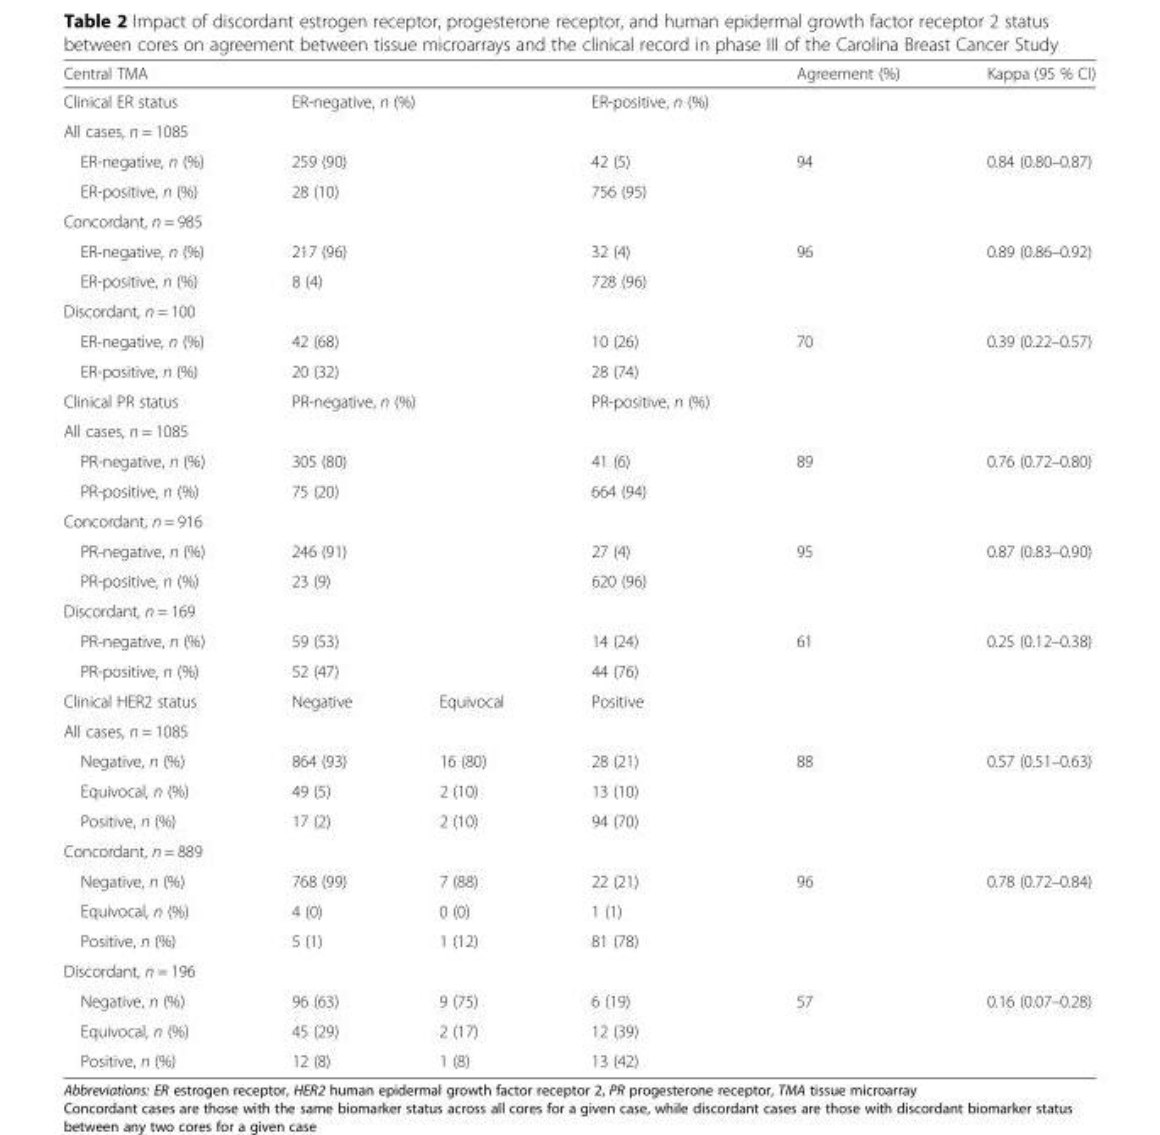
<table><thead><tr><td>Central TMA</td><td></td><td></td><td></td><td>Agreement (%)</td><td>Kappa (95 % CI)</td></tr></thead><tbody><tr><td>Clinical ER status</td><td colspan="2">ER-negative, n (%)</td><td>ER-positive, n (%)</td><td></td><td></td></tr><tr><td colspan="6">All cases, n = 1085</td></tr><tr><td>ER-negative, n (%)</td><td colspan="2">259 (90)</td><td>42 (5)</td><td rowspan="2">94</td><td rowspan="2">0.84 (0.80–0.87)</td></tr><tr><td>ER-positive, n (%)</td><td colspan="2">28 (10)</td><td>756 (95)</td></tr><tr><td colspan="6">Concordant, n = 985</td></tr><tr><td>ER-negative, n (%)</td><td colspan="2">217 (96)</td><td>32 (4)</td><td rowspan="2">96</td><td rowspan="2">0.89 (0.86–0.92)</td></tr><tr><td>ER-positive, n (%)</td><td colspan="2">8 (4)</td><td>728 (96)</td></tr><tr><td colspan="6">Discordant, n = 100</td></tr><tr><td>ER-negative, n (%)</td><td colspan="2">42 (68)</td><td>10 (26)</td><td>70</td><td>0.39 (0.22–0.57)</td></tr><tr><td>ER-positive, n (%)</td><td colspan="2">20 (32)</td><td>28 (74)</td><td></td><td></td></tr><tr><td>Clinical PR status</td><td colspan="2">PR-negative, n (%)</td><td>PR-positive, n (%)</td><td></td><td></td></tr><tr><td colspan="6">All cases, n = 1085</td></tr><tr><td>PR-negative, n (%)</td><td colspan="2">305 (80)</td><td>41 (6)</td><td rowspan="2">89</td><td rowspan="2">0.76 (0.72–0.80)</td></tr><tr><td>PR-positive, n (%)</td><td colspan="2">75 (20)</td><td>664 (94)</td></tr><tr><td colspan="6">Concordant, n = 916</td></tr><tr><td>PR-negative, n (%)</td><td colspan="2">246 (91)</td><td>27 (4)</td><td rowspan="2">95</td><td rowspan="2">0.87 (0.83–0.90)</td></tr><tr><td>PR-positive, n (%)</td><td colspan="2">23 (9)</td><td>620 (96)</td></tr><tr><td colspan="6">Discordant, n = 169</td></tr><tr><td>PR-negative, n (%)</td><td colspan="2">59 (53)</td><td>14 (24)</td><td>61</td><td>0.25 (0.12–0.38)</td></tr><tr><td>PR-positive, n (%)</td><td colspan="2">52 (47)</td><td>44 (76)</td><td></td><td></td></tr><tr><td>Clinical HER2 status</td><td>Negative</td><td>Equivocal</td><td>Positive</td><td></td><td></td></tr><tr><td colspan="6">All cases, n = 1085</td></tr><tr><td>Negative, n (%)</td><td>864 (93)</td><td>16 (80)</td><td>28 (21)</td><td rowspan="3">88</td><td rowspan="3">0.57 (0.51–0.63)</td></tr><tr><td>Equivocal, n (%)</td><td>49 (5)</td><td>2 (10)</td><td>13 (10)</td></tr><tr><td>Positive, n (%)</td><td>17 (2)</td><td>2 (10)</td><td>94 (70)</td></tr><tr><td colspan="6">Concordant, n = 889</td></tr><tr><td>Negative, n (%)</td><td>768 (99)</td><td>7 (88)</td><td>22 (21)</td><td rowspan="3">96</td><td rowspan="3">0.78 (0.72–0.84)</td></tr><tr><td>Equivocal, n (%)</td><td>4 (0)</td><td>0 (0)</td><td>1 (1)</td></tr><tr><td>Positive, n (%)</td><td>5 (1)</td><td>1 (12)</td><td>81 (78)</td></tr><tr><td colspan="6">Discordant, n = 196</td></tr><tr><td>Negative, n (%)</td><td>96 (63)</td><td>9 (75)</td><td>6 (19)</td><td rowspan="3">57</td><td rowspan="3">0.16 (0.07–0.28)</td></tr><tr><td>Equivocal, n (%)</td><td>45 (29)</td><td>2 (17)</td><td>12 (39)</td></tr><tr><td>Positive, n (%)</td><td>12 (8)</td><td>1 (8)</td><td>13 (42)</td></tr></tbody></table>